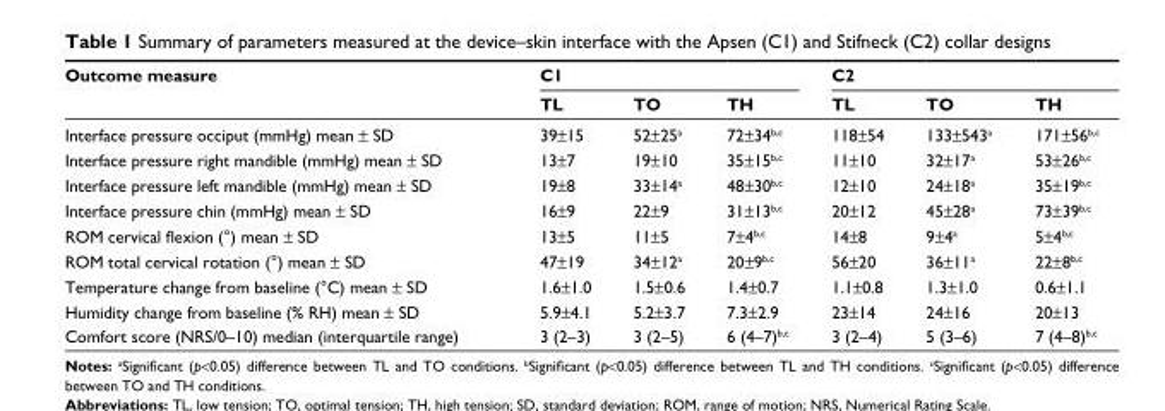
<table><thead><tr><td rowspan="2">Outcome measure</td><td colspan="3">C1</td><td colspan="3">C2</td></tr><tr><td>TL</td><td>TO</td><td>TH</td><td>TL</td><td>TO</td><td>TH</td></tr></thead><tbody><tr><td>Interface pressure occiput (mmHg) mean ± SD</td><td>39±15</td><td>52±25<sup>a</sup></td><td>72±34<sup>b</sup>,<sup>c</sup></td><td>118±54</td><td>133±543<sup>a</sup></td><td>171±56<sup>b</sup>,<sup>c</sup></td></tr><tr><td>Interface pressure right mandible (mmHg) mean ± SD</td><td>13±7</td><td>19±10</td><td>35±15<sup>b</sup>,<sup>c</sup></td><td>11±10</td><td>32±17<sup>a</sup></td><td>53±26<sup>b</sup>,<sup>c</sup></td></tr><tr><td>Interface pressure left mandible (mmHg) mean ± SD</td><td>19±8</td><td>33±14<sup>a</sup></td><td>48±30<sup>b</sup>,<sup>c</sup></td><td>12±10</td><td>24±18<sup>a</sup></td><td>35±19<sup>b</sup>,<sup>c</sup></td></tr><tr><td>Interface pressure chin (mmHg) mean ± SD</td><td>16±9</td><td>22±9</td><td>31±13<sup>b</sup>,<sup>c</sup></td><td>20±12</td><td>45±28<sup>a</sup></td><td>73±39<sup>b</sup>,<sup>c</sup></td></tr><tr><td>ROM cervical flexion (°) mean ± SD</td><td>13±5</td><td>11±5</td><td>7±4<sup>b</sup>,<sup>c</sup></td><td>14±8</td><td>9±4<sup>a</sup></td><td>5±4<sup>b</sup>,<sup>c</sup></td></tr><tr><td>ROM total cervical rotation (°) mean ± SD</td><td>47±19</td><td>34±12<sup>a</sup></td><td>20±9<sup>b</sup>,<sup>c</sup></td><td>56±20</td><td>36±11<sup>a</sup></td><td>22±8<sup>b</sup>,<sup>c</sup></td></tr><tr><td>Temperature change from baseline (°C) mean ± SD</td><td>1.6±1.0</td><td>1.5±0.6</td><td>1.4±0.7</td><td>1.1±0.8</td><td>1.3±1.0</td><td>0.6±1.1</td></tr><tr><td>Humidity change from baseline (% RH) mean ± SD</td><td>5.9±4.1</td><td>5.2±3.7</td><td>7.3±2.9</td><td>23±14</td><td>24±16</td><td>20±13</td></tr><tr><td>Comfort score (NRS/0–10) median (interquartile range)</td><td>3 (2–3)</td><td>3 (2–5)</td><td>6 (4–7)<sup>b</sup>,<sup>c</sup></td><td>3 (2–4)</td><td>5 (3–6)</td><td>7 (4–8)<sup>b</sup>,<sup>c</sup></td></tr></tbody></table>